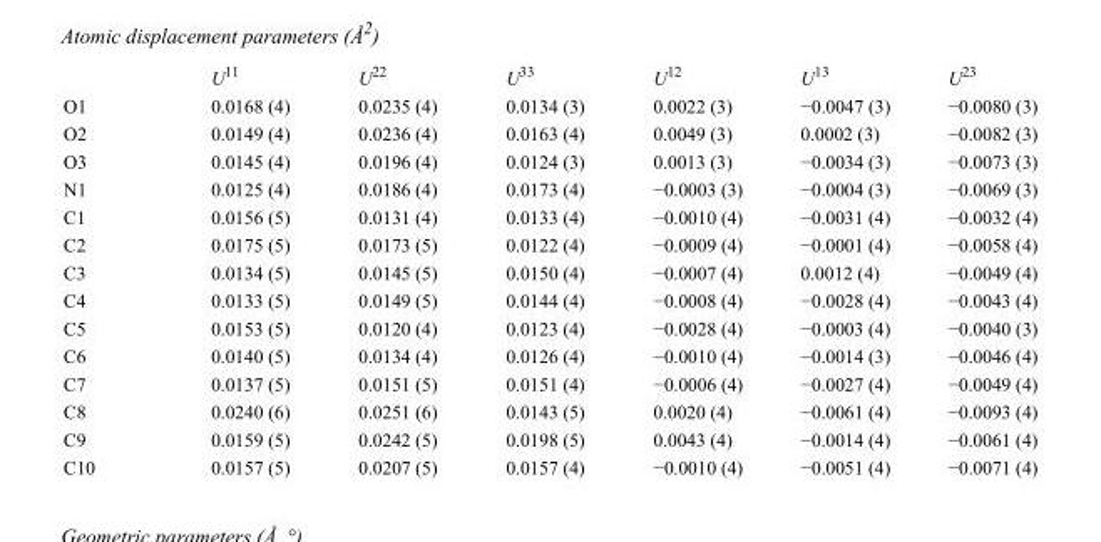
<table><thead><tr><td></td><td>U<sup>11</sup></td><td>U<sup>22</sup></td><td>U<sup>33</sup></td><td>U<sup>12</sup></td><td>U<sup>13</sup></td><td>U<sup>23</sup></td></tr></thead><tbody><tr><td>O1</td><td>0.0168 (4)</td><td>0.0235 (4)</td><td>0.0134 (3)</td><td>0.0022 (3)</td><td>−0.0047 (3)</td><td>−0.0080 (3)</td></tr><tr><td>O2</td><td>0.0149 (4)</td><td>0.0236 (4)</td><td>0.0163 (4)</td><td>0.0049 (3)</td><td>0.0002 (3)</td><td>−0.0082 (3)</td></tr><tr><td>O3</td><td>0.0145 (4)</td><td>0.0196 (4)</td><td>0.0124 (3)</td><td>0.0013 (3)</td><td>−0.0034 (3)</td><td>−0.0073 (3)</td></tr><tr><td>N1</td><td>0.0125 (4)</td><td>0.0186 (4)</td><td>0.0173 (4)</td><td>−0.0003 (3)</td><td>−0.0004 (3)</td><td>−0.0069 (3)</td></tr><tr><td>C1</td><td>0.0156 (5)</td><td>0.0131 (4)</td><td>0.0133 (4)</td><td>−0.0010 (4)</td><td>−0.0031 (4)</td><td>−0.0032 (4)</td></tr><tr><td>C2</td><td>0.0175 (5)</td><td>0.0173 (5)</td><td>0.0122 (4)</td><td>−0.0009 (4)</td><td>−0.0001 (4)</td><td>−0.0058 (4)</td></tr><tr><td>C3</td><td>0.0134 (5)</td><td>0.0145 (5)</td><td>0.0150 (4)</td><td>−0.0007 (4)</td><td>0.0012 (4)</td><td>−0.0049 (4)</td></tr><tr><td>C4</td><td>0.0133 (5)</td><td>0.0149 (5)</td><td>0.0144 (4)</td><td>−0.0008 (4)</td><td>−0.0028 (4)</td><td>−0.0043 (4)</td></tr><tr><td>C5</td><td>0.0153 (5)</td><td>0.0120 (4)</td><td>0.0123 (4)</td><td>−0.0028 (4)</td><td>−0.0003 (4)</td><td>−0.0040 (3)</td></tr><tr><td>C6</td><td>0.0140 (5)</td><td>0.0134 (4)</td><td>0.0126 (4)</td><td>−0.0010 (4)</td><td>−0.0014 (3)</td><td>−0.0046 (4)</td></tr><tr><td>C7</td><td>0.0137 (5)</td><td>0.0151 (5)</td><td>0.0151 (4)</td><td>−0.0006 (4)</td><td>−0.0027 (4)</td><td>−0.0049 (4)</td></tr><tr><td>C8</td><td>0.0240 (6)</td><td>0.0251 (6)</td><td>0.0143 (5)</td><td>0.0020 (4)</td><td>−0.0061 (4)</td><td>−0.0093 (4)</td></tr><tr><td>C9</td><td>0.0159 (5)</td><td>0.0242 (5)</td><td>0.0198 (5)</td><td>0.0043 (4)</td><td>−0.0014 (4)</td><td>−0.0061 (4)</td></tr><tr><td>C10</td><td>0.0157 (5)</td><td>0.0207 (5)</td><td>0.0157 (4)</td><td>−0.0010 (4)</td><td>−0.0051 (4)</td><td>−0.0071 (4)</td></tr></tbody></table>